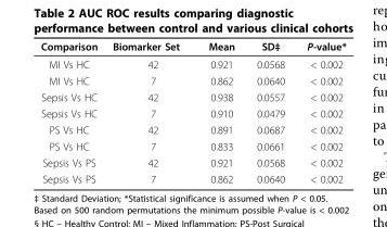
<table><thead><tr><td>Comparison</td><td>Biomarker Set</td><td>Mean</td><td>SD‡</td><td>P-value*</td></tr></thead><tbody><tr><td>MI Vs HC</td><td>42</td><td>0.921</td><td>0.0568</td><td>&lt; 0.002</td></tr><tr><td>MI Vs HC</td><td>7</td><td>0.862</td><td>0.0640</td><td>&lt; 0.002</td></tr><tr><td>Sepsis Vs HC</td><td>42</td><td>0.938</td><td>0.0557</td><td>&lt; 0.002</td></tr><tr><td>Sepsis Vs HC</td><td>7</td><td>0.910</td><td>0.0479</td><td>&lt; 0.002</td></tr><tr><td>PS Vs HC</td><td>42</td><td>0.891</td><td>0.0687</td><td>&lt; 0.002</td></tr><tr><td>PS Vs HC</td><td>7</td><td>0.833</td><td>0.0661</td><td>&lt; 0.002</td></tr><tr><td>Sepsis Vs PS</td><td>42</td><td>0.921</td><td>0.0568</td><td>&lt; 0.002</td></tr><tr><td>Sepsis Vs PS</td><td>7</td><td>0.862</td><td>0.0640</td><td>&lt; 0.002</td></tr></tbody></table>